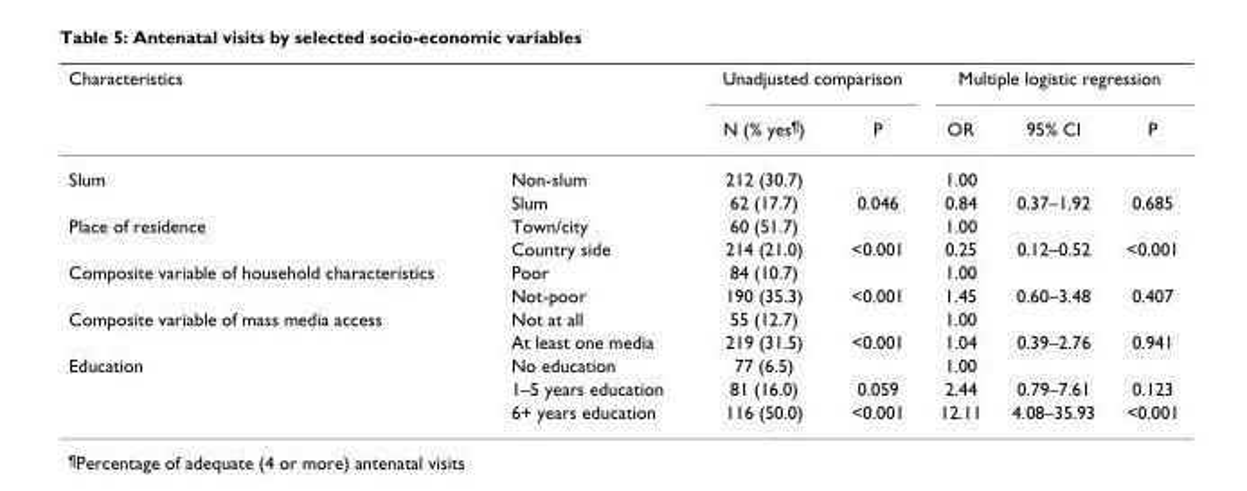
<table><thead><tr><td rowspan="2">Characteristics</td><td rowspan="2"></td><td colspan="2">Unadjusted comparison</td><td colspan="3">Multiple logistic regression</td></tr><tr><td>N (% yes<sup>¶</sup>)</td><td>P</td><td>OR</td><td>95% CI</td><td>P</td></tr></thead><tbody><tr><td rowspan="2">Slum</td><td>Non-slum</td><td>212 (30.7)</td><td></td><td>1.00</td><td></td><td></td></tr><tr><td>Slum</td><td>62 (17.7)</td><td>0.046</td><td>0.84</td><td>0.37–1.92</td><td>0.685</td></tr><tr><td rowspan="2">Place of residence</td><td>Town/city</td><td>60 (51.7)</td><td></td><td>1.00</td><td></td><td></td></tr><tr><td>Country side</td><td>214 (21.0)</td><td>&lt;0.001</td><td>0.25</td><td>0.12–0.52</td><td>&lt;0.001</td></tr><tr><td rowspan="2">Composite variable of household characteristics</td><td>Poor</td><td>84 (10.7)</td><td></td><td>1.00</td><td></td><td></td></tr><tr><td>Not-poor</td><td>190 (35.3)</td><td>&lt;0.001</td><td>1.45</td><td>0.60–3.48</td><td>0.407</td></tr><tr><td rowspan="2">Composite variable of mass media access</td><td>Not at all</td><td>55 (12.7)</td><td></td><td>1.00</td><td></td><td></td></tr><tr><td>At least one media</td><td>219 (31.5)</td><td>&lt;0.001</td><td>1.04</td><td>0.39–2.76</td><td>0.941</td></tr><tr><td rowspan="3">Education</td><td>No education</td><td>77 (6.5)</td><td></td><td>1.00</td><td></td><td></td></tr><tr><td>1–5 years education</td><td>81 (16.0)</td><td>0.059</td><td>2.44</td><td>0.79–7.61</td><td>0.123</td></tr><tr><td>6+ years education</td><td>116 (50.0)</td><td>&lt;0.001</td><td>12.11</td><td>4.08–35.93</td><td>&lt;0.001</td></tr></tbody></table>